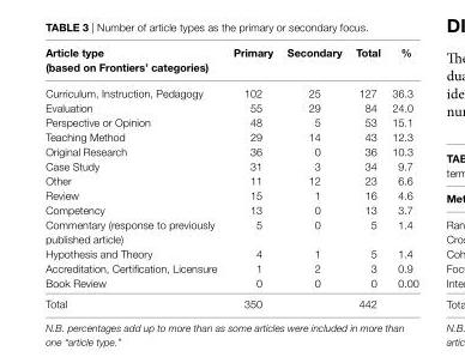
<table><thead><tr><td>article type (based on Frontiers’ categories)</td><td>Primary</td><td>secondary</td><td>Total</td><td>%</td></tr></thead><tbody><tr><td>Curriculum, Instruction, Pedagogy</td><td>102</td><td>25</td><td>127</td><td>36.3</td></tr><tr><td>Evaluation</td><td>55</td><td>29</td><td>84</td><td>24.0</td></tr><tr><td>Perspective or Opinion</td><td>48</td><td>5</td><td>53</td><td>15.1</td></tr><tr><td>Teaching Method</td><td>29</td><td>14</td><td>43</td><td>12.3</td></tr><tr><td>Original Research</td><td>36</td><td>0</td><td>36</td><td>10.3</td></tr><tr><td>Case Study</td><td>31</td><td>3</td><td>34</td><td>9.7</td></tr><tr><td>Other</td><td>11</td><td>12</td><td>23</td><td>6.6</td></tr><tr><td>Review</td><td>15</td><td>1</td><td>16</td><td>4.6</td></tr><tr><td>Competency</td><td>13</td><td>0</td><td>13</td><td>3.7</td></tr><tr><td>Commentary (response to previously published article)</td><td>5</td><td>0</td><td>5</td><td>1.4</td></tr><tr><td>Hypothesis and Theory</td><td>4</td><td>1</td><td>5</td><td>1.4</td></tr><tr><td>Accreditation, Certification, Licensure</td><td>1</td><td>2</td><td>3</td><td>0.9</td></tr><tr><td>Book Review</td><td>0</td><td>0</td><td>0</td><td>0.00</td></tr><tr><td>Total</td><td>350</td><td></td><td>442</td><td></td></tr></tbody></table>